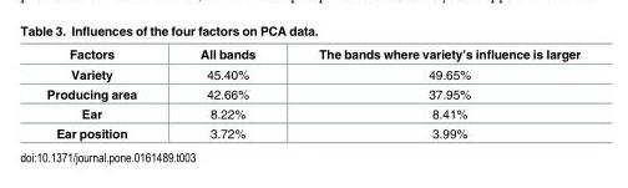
<table><thead><tr><td>Factors</td><td>All bands</td><td>The bands where variety’s influence is larger</td></tr></thead><tbody><tr><td>Variety</td><td>45.40%</td><td>49.65%</td></tr><tr><td>Producing area</td><td>42.66%</td><td>37.95%</td></tr><tr><td>Ear</td><td>8.22%</td><td>8.41%</td></tr><tr><td>Ear position</td><td>3.72%</td><td>3.99%</td></tr></tbody></table>